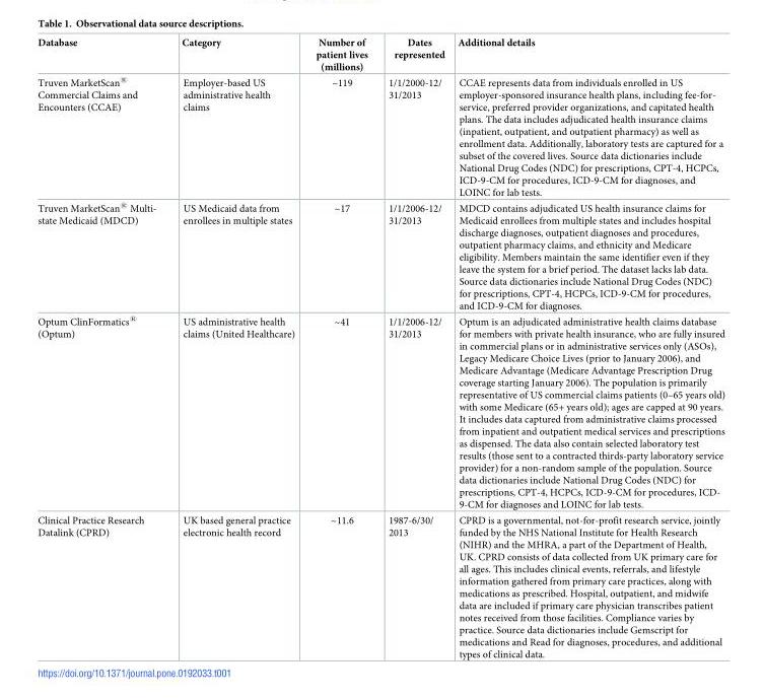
<table><thead><tr><td>Database</td><td>Category</td><td>Number of patient lives (millions)</td><td>Dates represented</td><td>Additional details</td></tr></thead><tbody><tr><td>Truven MarketScan<sup>®</sup> Commercial Claims and Encounters (CCAE)</td><td>Employer-based US administrative health claims</td><td>~119</td><td>1/1/2000-12/ 31/2013</td><td>CCAE represents data from individuals enrolled in US employer-sponsored insurance health plans, including fee-for- service, preferred provider organizations, and capitated health plans. The data includes adjudicated health insurance claims (inpatient, outpatient, and outpatient pharmacy) as well as enrollment data. Additionally, laboratory tests are captured for a subset of the covered lives. Source data dictionaries include National Drug Codes (NDC) for prescriptions, CPT-4, HCPCs, ICD-9-CM for procedures, ICD-9-CM for diagnoses, and LOINC for lab tests.</td></tr><tr><td>Truven MarketScan<sup>®</sup> Multi- state Medicaid (MDCD)</td><td>US Medicaid data from enrollees in multiple states</td><td>~17</td><td>1/1/2006-12/ 31/2013</td><td>MDCD contains adjudicated US health insurance claims for Medicaid enrollees from multiple states and includes hospital discharge diagnoses, outpatient diagnoses and procedures, outpatient pharmacy claims, and ethnicity and Medicare eligibility. Members maintain the same identifier even if they leave the system for a brief period. The dataset lacks lab data. Source data dictionaries include National Drug Codes (NDC) for prescriptions, CPT-4, HCPCs, ICD-9-CM for procedures, and ICD-9-CM for diagnoses.</td></tr><tr><td>Optum ClinFormatics<sup>®</sup> (Optum)</td><td>US administrative health claims (United Healthcare)</td><td>~41</td><td>1/1/2006-12/ 31/2013</td><td>Optum is an adjudicated administrative health claims database for members with private health insurance, who are fully insured in commercial plans or in administrative services only (ASOs), Legacy Medicare Choice Lives (prior to January 2006), and Medicare Advantage (Medicare Advantage Prescription Drug coverage starting January 2006). The population is primarily representative of US commercial claims patients (0–65 years old) with some Medicare (65+ years old); ages are capped at 90 years. It includes data captured from administrative claims processed from inpatient and outpatient medical services and prescriptions as dispensed. The data also contain selected laboratory test results (those sent to a contracted thirds-party laboratory service provider) for a non-random sample of the population. Source data dictionaries include National Drug Codes (NDC) for prescriptions, CPT-4, HCPCs, ICD-9-CM for procedures, ICD- 9-CM for diagnoses and LOINC for lab tests.</td></tr><tr><td>Clinical Practice Research Datalink (CPRD)</td><td>UK based general practice electronic health record</td><td>~11.6</td><td>1987-6/30/ 2013</td><td>CPRD is a governmental, not-for-profit research service, jointly funded by the NHS National Institute for Health Research (NIHR) and the MHRA, a part of the Department of Health, UK. CPRD consists of data collected from UK primary care for all ages. This includes clinical events, referrals, and lifestyle information gathered from primary care practices, along with medications as prescribed. Hospital, outpatient, and midwife data are included if primary care physician transcribes patient notes received from those facilities. Compliance varies by practice. Source data dictionaries include Gemscript for medications and Read for diagnoses, procedures, and additional types of clinical data.</td></tr></tbody></table>